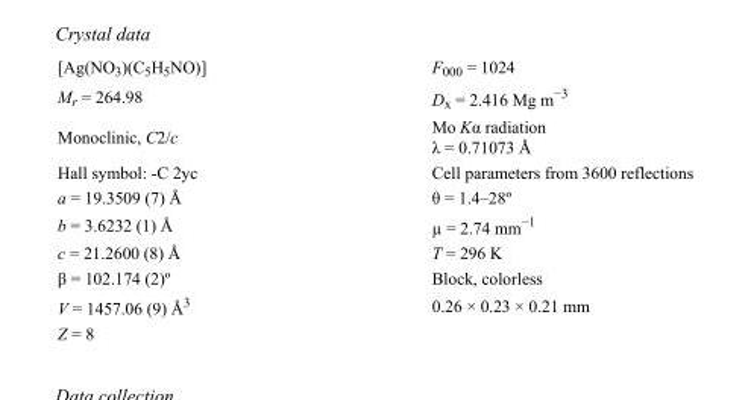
<table><tbody><tr><td>[Ag(NO<sub>3</sub>)(C<sub>5</sub>H<sub>5</sub>NO)]</td><td>F000 = 1024</td></tr><tr><td>M<sub>r</sub> = 264.98</td><td>D<sub>x</sub> = 2.416 Mg m<sup>−3</sup></td></tr><tr><td>Monoclinic, C2/c</td><td>Mo Kα radiation λ = 0.71073 Å</td></tr><tr><td>Hall symbol: -C 2yc</td><td>Cell parameters from 3600 reflections</td></tr><tr><td>a = 19.3509 (7) Å</td><td>θ = 1.4–28º</td></tr><tr><td>b = 3.6232 (1) Å</td><td>µ = 2.74 mm<sup>−1</sup></td></tr><tr><td>c = 21.2600 (8) Å</td><td>T = 296 K</td></tr><tr><td>β = 102.174 (2)º</td><td>Block, colorless</td></tr><tr><td>V = 1457.06 (9) Å<sup>3</sup></td><td>0.26 × 0.23 × 0.21 mm</td></tr><tr><td>Z = 8</td><td></td></tr></tbody></table>